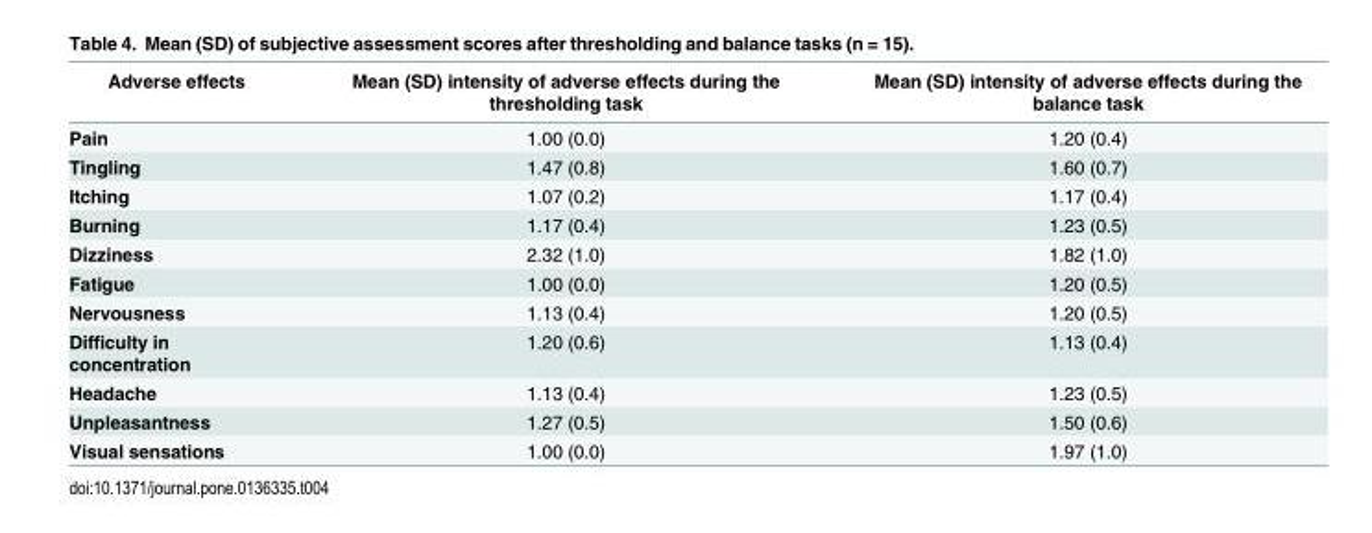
<table><thead><tr><td>Adverse effects</td><td>Mean (SD) intensity of adverse effects during the thresholding task</td><td>Mean (SD) intensity of adverse effects during the balance task</td></tr></thead><tbody><tr><td>Pain</td><td>1.00 (0.0)</td><td>1.20 (0.4)</td></tr><tr><td>Tingling</td><td>1.47 (0.8)</td><td>1.60 (0.7)</td></tr><tr><td>Itching</td><td>1.07 (0.2)</td><td>1.17 (0.4)</td></tr><tr><td>Burning</td><td>1.17 (0.4)</td><td>1.23 (0.5)</td></tr><tr><td>Dizziness</td><td>2.32 (1.0)</td><td>1.82 (1.0)</td></tr><tr><td>Fatigue</td><td>1.00 (0.0)</td><td>1.20 (0.5)</td></tr><tr><td>Nervousness</td><td>1.13 (0.4)</td><td>1.20 (0.5)</td></tr><tr><td>Difficulty in concentration</td><td>1.20 (0.6)</td><td>1.13 (0.4)</td></tr><tr><td>Headache</td><td>1.13 (0.4)</td><td>1.23 (0.5)</td></tr><tr><td>Unpleasantness</td><td>1.27 (0.5)</td><td>1.50 (0.6)</td></tr><tr><td>Visual sensations</td><td>1.00 (0.0)</td><td>1.97 (1.0)</td></tr></tbody></table>